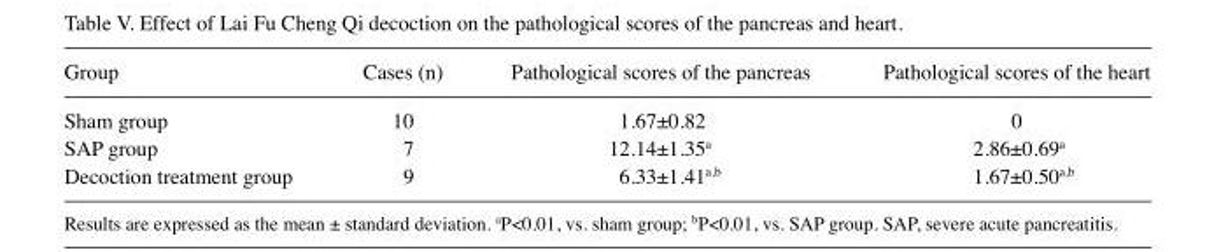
<table><thead><tr><td>Group</td><td>Cases (n)</td><td>Pathological scores of the pancreas</td><td>Pathological scores of the heart</td></tr></thead><tbody><tr><td>Sham group</td><td>10</td><td>1.67±0.82</td><td>0</td></tr><tr><td>SAP group</td><td>7</td><td>12.14±1.35<sup>a</sup></td><td>2.86±0.69<sup>a</sup></td></tr><tr><td>Decoction treatment group</td><td>9</td><td>6.33±1.41<sup>a</sup>,<sup>b</sup></td><td>1.67±0.50<sup>a</sup>,<sup>b</sup></td></tr></tbody></table>